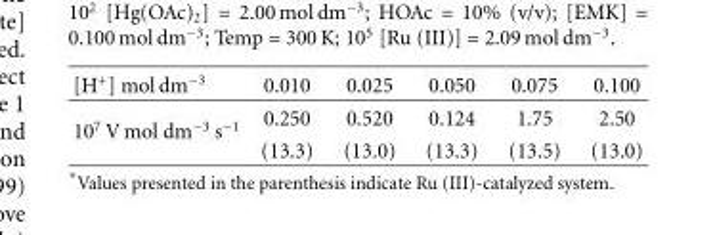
<table><thead><tr><td>[H<sup>+</sup>] mol dm<sup>−3</sup></td><td>0.010</td><td>0.025</td><td>0.050</td><td>0.075</td><td>0.100</td></tr></thead><tbody><tr><td rowspan="2">10<sup>7</sup> V mol dm<sup>−3</sup> s<sup>−1</sup></td><td>0.250</td><td>0.520</td><td>0.124</td><td>1.75</td><td>2.50</td></tr><tr><td>(13.3)</td><td>(13.0)</td><td>(13.3)</td><td>(13.5)</td><td>(13.0)</td></tr></tbody></table>